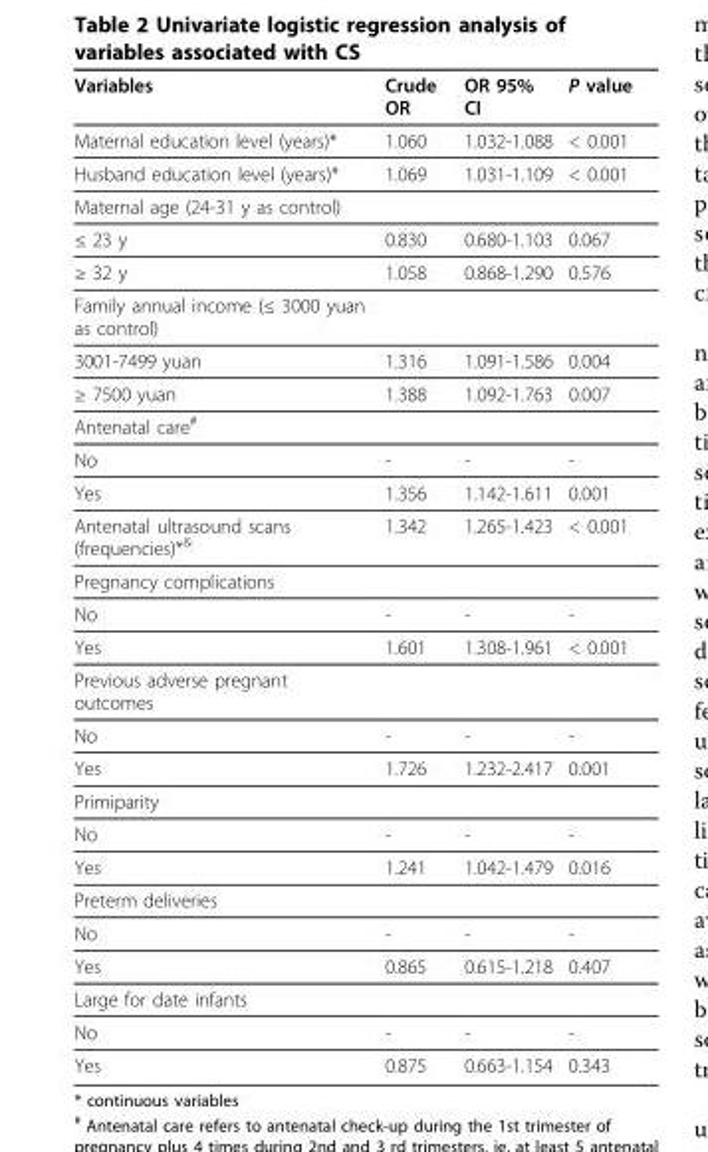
<table><thead><tr><td>Variables</td><td>Crude OR</td><td>OR 95% CI</td><td>P value</td></tr></thead><tbody><tr><td>Maternal education level (years)*</td><td>1.060</td><td>1.032-1.088</td><td>&lt; 0.001</td></tr><tr><td>Husband education level (years)*</td><td>1.069</td><td>1.031-1.109</td><td>&lt; 0.001</td></tr><tr><td colspan="4">Maternal age (24-31 y as control)</td></tr><tr><td>≤ 23 y</td><td>0.830</td><td>0.680-1.103</td><td>0.067</td></tr><tr><td>≥ 32 y</td><td>1.058</td><td>0.868-1.290</td><td>0.576</td></tr><tr><td colspan="4">Family annual income (≤ 3000 yuan as control)</td></tr><tr><td>3001-7499 yuan</td><td>1.316</td><td>1.091-1.586</td><td>0.004</td></tr><tr><td>≥ 7500 yuan</td><td>1.388</td><td>1.092-1.763</td><td>0.007</td></tr><tr><td colspan="4">Antenatal care<sup>#</sup></td></tr><tr><td>No</td><td>-</td><td>-</td><td>-</td></tr><tr><td>Yes</td><td>1.356</td><td>1.142-1.611</td><td>0.001</td></tr><tr><td>Antenatal ultrasound scans (frequencies)*<sup>&amp;</sup></td><td>1.342</td><td>1.265-1.423</td><td>&lt; 0.001</td></tr><tr><td colspan="4">Pregnancy complications</td></tr><tr><td>No</td><td>-</td><td>-</td><td>-</td></tr><tr><td>Yes</td><td>1.601</td><td>1.308-1.961</td><td>&lt; 0.001</td></tr><tr><td colspan="4">Previous adverse pregnant outcomes</td></tr><tr><td>No</td><td>-</td><td>-</td><td>-</td></tr><tr><td>Yes</td><td>1.726</td><td>1.232-2.417</td><td>0.001</td></tr><tr><td colspan="4">Primiparity</td></tr><tr><td>No</td><td>-</td><td>-</td><td>-</td></tr><tr><td>Yes</td><td>1.241</td><td>1.042-1.479</td><td>0.016</td></tr><tr><td colspan="4">Preterm deliveries</td></tr><tr><td>No</td><td>-</td><td>-</td><td>-</td></tr><tr><td>Yes</td><td>0.865</td><td>0.615-1.218</td><td>0.407</td></tr><tr><td colspan="4">Large for date infants</td></tr><tr><td>No</td><td>-</td><td>-</td><td>-</td></tr><tr><td>Yes</td><td>0.875</td><td>0.663-1.154</td><td>0.343</td></tr></tbody></table>